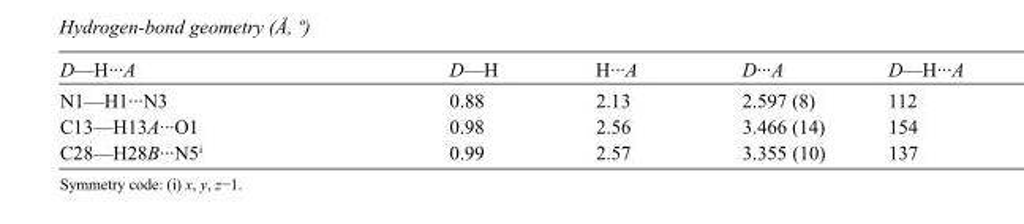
<table><tbody><tr><td>D—H···A</td><td>D—H</td><td>H···A</td><td>D···A</td><td>D—H···A</td></tr><tr><td>N1—H1···N3</td><td>0.88</td><td>2.13</td><td>2.597 (8)</td><td>112</td></tr><tr><td>C13—H13A···O1</td><td>0.98</td><td>2.56</td><td>3.466 (14)</td><td>154</td></tr><tr><td>C28—H28B···N5<sup>i</sup></td><td>0.99</td><td>2.57</td><td>3.355 (10)</td><td>137</td></tr></tbody></table>